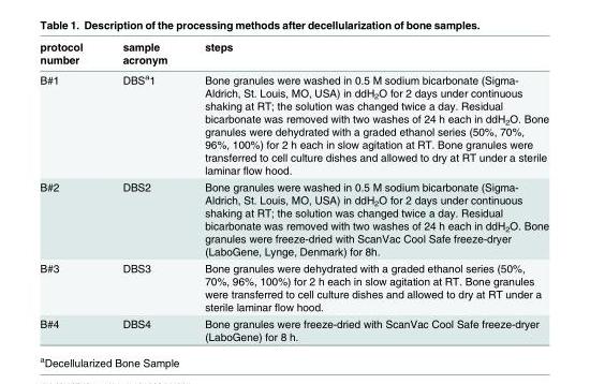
<table><thead><tr><td>protocol number</td><td>sample acronym</td><td>steps</td></tr></thead><tbody><tr><td>B#1</td><td>DBS<sup>a</sup>1</td><td>Bone granules were washed in 0.5 M sodium bicarbonate (Sigma- Aldrich, St. Louis, MO, USA) in ddH<sub>2</sub>O for 2 days under continuous shaking at RT; the solution was changed twice a day. Residual bicarbonate was removed with two washes of 24 h each in ddH<sub>2</sub>O. Bone granules were dehydrated with a graded ethanol series (50%, 70%, 96%, 100%) for 2 h each in slow agitation at RT. Bone granules were transferred to cell culture dishes and allowed to dry at RT under a sterile laminar flow hood.</td></tr><tr><td>B#2</td><td>DBS2</td><td>Bone granules were washed in 0.5 M sodium bicarbonate (Sigma- Aldrich, St. Louis, MO, USA) in ddH<sub>2</sub>O for 2 days under continuous shaking at RT; the solution was changed twice a day. Residual bicarbonate was removed with two washes of 24 h each in ddH<sub>2</sub>O. Bone granules were freeze-dried with ScanVac Cool Safe freeze-dryer (LaboGene, Lynge, Denmark) for 8h.</td></tr><tr><td>B#3</td><td>DBS3</td><td>Bone granules were dehydrated with a graded ethanol series (50%, 70%, 96%, 100%) for 2 h each in slow agitation at RT. Bone granules were transferred to cell culture dishes and allowed to dry at RT under a sterile laminar flow hood.</td></tr><tr><td>B#4</td><td>DBS4</td><td>Bone granules were freeze-dried with ScanVac Cool Safe freeze-dryer (LaboGene) for 8 h.</td></tr></tbody></table>